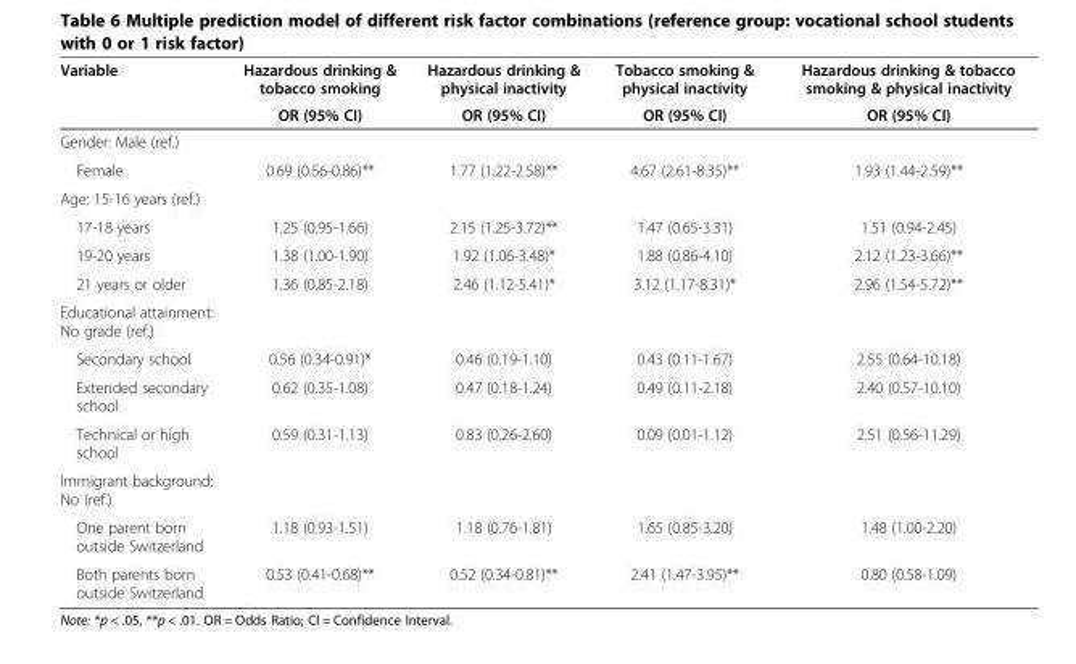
<table><thead><tr><td rowspan="2">Variable</td><td rowspan="2">Hazardous drinking &amp; tobacco smoking OR (95% CI)</td><td rowspan="2">Hazardous drinking &amp; physical inactivity OR (95% CI)</td><td rowspan="2">Tobacco smoking &amp; physical inactivity OR (95% CI)</td><td rowspan="2">Hazardous drinking &amp; tobacco smoking &amp; physical inactivity OR (95% CI)</td></tr><tr></tr></thead><tbody><tr><td colspan="5">Gender: Male (ref.)</td></tr><tr><td>Female</td><td>0.69 (0.56-0.86)**</td><td>1.77 (1.22-2.58)**</td><td>4.67 (2.61-8.35)**</td><td>1.93 (1.44-2.59)**</td></tr><tr><td colspan="5">Age: 15-16 years (ref.)</td></tr><tr><td>17-18 years</td><td>1.25 (0.95-1.66)</td><td>2.15 (1.25-3.72)**</td><td>1.47 (0.65-3.31)</td><td>1.51 (0.94-2.45)</td></tr><tr><td>19-20 years</td><td>1.38 (1.00-1.90)</td><td>1.92 (1.06-3.48)*</td><td>1.88 (0.86-4.10)</td><td>2.12 (1.23-3.66)**</td></tr><tr><td>21 years or older</td><td>1.36 (0.85-2.18)</td><td>2.46 (1.12-5.41)*</td><td>3.12 (1.17-8.31)*</td><td>2.96 (1.54-5.72)**</td></tr><tr><td colspan="5">Educational attainment: No grade (ref.)</td></tr><tr><td>Secondary school</td><td>0.56 (0.34-0.91)*</td><td>0.46 (0.19-1.10)</td><td>0.43 (0.11-1.67)</td><td>2.55 (0.64-10.18)</td></tr><tr><td>Extended secondary school</td><td>0.62 (0.35-1.08)</td><td>0.47 (0.18-1.24)</td><td>0.49 (0.11-2.18)</td><td>2.40 (0.57-10.10)</td></tr><tr><td>Technical or high school</td><td>0.59 (0.31-1.13)</td><td>0.83 (0.26-2.60)</td><td>0.09 (0.01-1.12)</td><td>2.51 (0.56-11.29)</td></tr><tr><td colspan="5">Immigrant background: No (ref.)</td></tr><tr><td>One parent born outside Switzerland</td><td>1.18 (0.93-1.51)</td><td>1.18 (0.76-1.81)</td><td>1.65 (0.85-3.20)</td><td>1.48 (1.00-2.20)</td></tr><tr><td>Both parents born outside Switzerland</td><td>0.53 (0.41-0.68)**</td><td>0.52 (0.34-0.81)**</td><td>2.41 (1.47-3.95)**</td><td>0.80 (0.58-1.09)</td></tr></tbody></table>